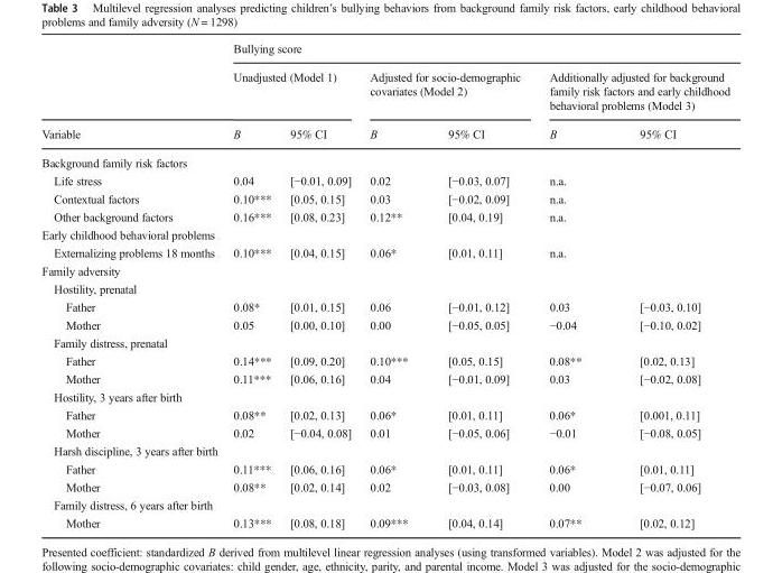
<table><thead><tr><td rowspan="3">Variable</td><td colspan="6">Bullying score</td></tr><tr><td colspan="2">Unadjusted (Model 1)</td><td colspan="2">Adjusted for socio-demographic covariates (Model 2)</td><td colspan="2">Additionally adjusted for background family risk factors and early childhood behavioral problems (Model 3)</td></tr><tr><td>B</td><td>95% CI</td><td>B</td><td>95% CI</td><td>B</td><td>95% CI</td></tr></thead><tbody><tr><td colspan="7">Background family risk factors</td></tr><tr><td>Life stress</td><td>0.04</td><td>[−0.01, 0.09]</td><td>0.02</td><td>[−0.03, 0.07]</td><td>n.a.</td><td></td></tr><tr><td>Contextual factors</td><td>0.10***</td><td>[0.05, 0.15]</td><td>0.03</td><td>[−0.02, 0.09]</td><td>n.a.</td><td></td></tr><tr><td>Other background factors</td><td>0.16***</td><td>[0.08, 0.23]</td><td>0.12**</td><td>[0.04, 0.19]</td><td>n.a.</td><td></td></tr><tr><td colspan="7">Early childhood behavioral problems</td></tr><tr><td>Externalizing problems 18 months</td><td>0.10***</td><td>[0.04, 0.15]</td><td>0.06*</td><td>[0.01, 0.11]</td><td>n.a.</td><td></td></tr><tr><td colspan="7">Family adversity</td></tr><tr><td colspan="7">Hostility, prenatal</td></tr><tr><td>Father</td><td>0.08*</td><td>[0.01, 0.15]</td><td>0.06</td><td>[−0.01, 0.12]</td><td>0.03</td><td>[−0.03, 0.10]</td></tr><tr><td>Mother</td><td>0.05</td><td>[0.00, 0.10]</td><td>0.00</td><td>[−0.05, 0.05]</td><td>−0.04</td><td>[−0.10, 0.02]</td></tr><tr><td colspan="7">Family distress, prenatal</td></tr><tr><td>Father</td><td>0.14***</td><td>[0.09, 0.20]</td><td>0.10***</td><td>[0.05, 0.15]</td><td>0.08**</td><td>[0.02, 0.13]</td></tr><tr><td>Mother</td><td>0.11***</td><td>[0.06, 0.16]</td><td>0.04</td><td>[−0.01, 0.09]</td><td>0.03</td><td>[−0.02, 0.08]</td></tr><tr><td colspan="7">Hostility, 3 years after birth</td></tr><tr><td>Father</td><td>0.08**</td><td>[0.02, 0.13]</td><td>0.06*</td><td>[0.01, 0.11]</td><td>0.06*</td><td>[0.001, 0.11]</td></tr><tr><td>Mother</td><td>0.02</td><td>[−0.04, 0.08]</td><td>0.01</td><td>[−0.05, 0.06]</td><td>−0.01</td><td>[−0.08, 0.05]</td></tr><tr><td colspan="7">Harsh discipline, 3 years after birth</td></tr><tr><td>Father</td><td>0.11***</td><td>[0.06, 0.16]</td><td>0.06*</td><td>[0.01, 0.11]</td><td>0.06*</td><td>[0.01, 0.11]</td></tr><tr><td>Mother</td><td>0.08**</td><td>[0.02, 0.14]</td><td>0.02</td><td>[−0.03, 0.08]</td><td>0.00</td><td>[−0.07, 0.06]</td></tr><tr><td colspan="7">Family distress, 6 years after birth</td></tr><tr><td>Mother</td><td>0.13***</td><td>[0.08, 0.18]</td><td>0.09***</td><td>[0.04, 0.14]</td><td>0.07**</td><td>[0.02, 0.12]</td></tr></tbody></table>